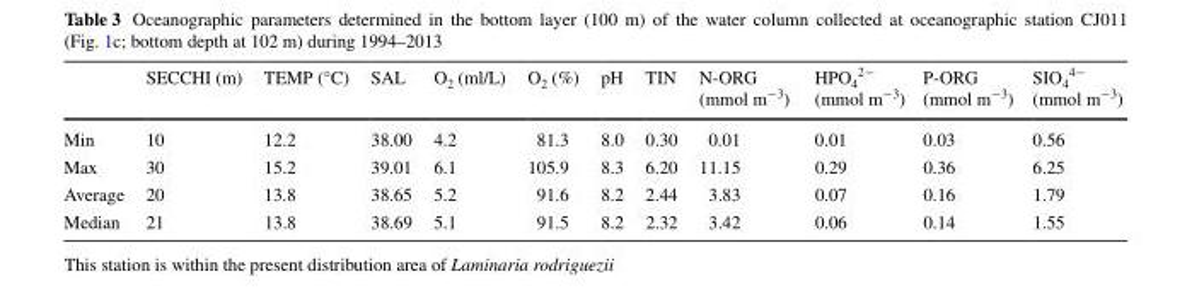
<table><thead><tr><td></td><td>SECCHI (m)</td><td>TEMP (°C)</td><td>SAL</td><td>O<sub>2</sub> (ml/L)</td><td>O<sub>2</sub> (%)</td><td>pH</td><td>TIN</td><td>N-ORG (mmol m<sup>−3</sup>)</td><td>HPO<sub>4</sub> <sup>2−</sup> (mmol m<sup>−3</sup>)</td><td>P-ORG (mmol m<sup>−3</sup>)</td><td>SIO<sub>4</sub> <sup>4−</sup> (mmol m<sup>−3</sup>)</td></tr></thead><tbody><tr><td>Min</td><td>10</td><td>12.2</td><td>38.00</td><td>4.2</td><td>81.3</td><td>8.0</td><td>0.30</td><td>0.01</td><td>0.01</td><td>0.03</td><td>0.56</td></tr><tr><td>Max</td><td>30</td><td>15.2</td><td>39.01</td><td>6.1</td><td>105.9</td><td>8.3</td><td>6.20</td><td>11.15</td><td>0.29</td><td>0.36</td><td>6.25</td></tr><tr><td>Average</td><td>20</td><td>13.8</td><td>38.65</td><td>5.2</td><td>91.6</td><td>8.2</td><td>2.44</td><td>3.83</td><td>0.07</td><td>0.16</td><td>1.79</td></tr><tr><td>Median</td><td>21</td><td>13.8</td><td>38.69</td><td>5.1</td><td>91.5</td><td>8.2</td><td>2.32</td><td>3.42</td><td>0.06</td><td>0.14</td><td>1.55</td></tr></tbody></table>